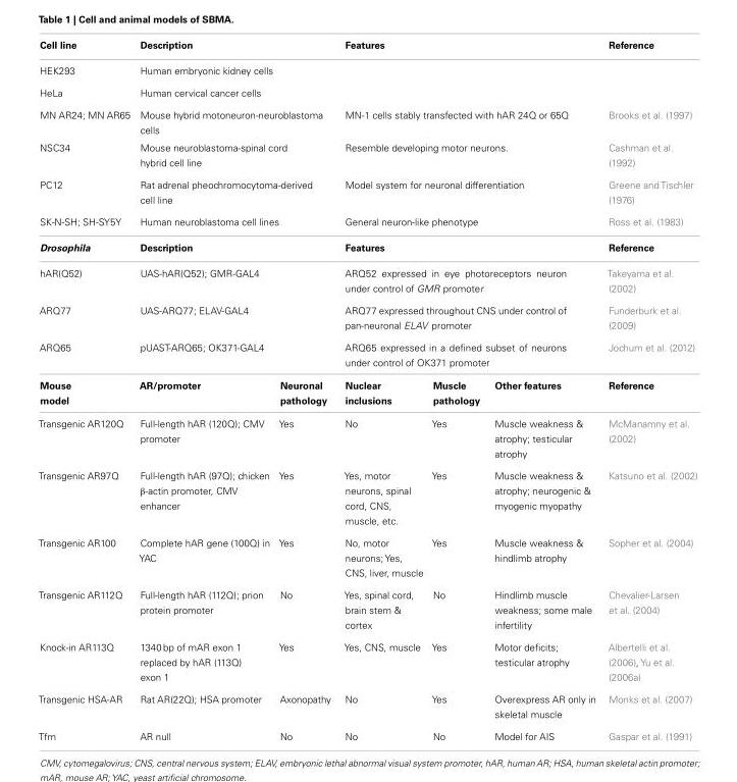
<table><thead><tr><td>Cell line</td><td colspan="2">Description</td><td colspan="3">Features</td><td>Reference</td></tr></thead><tbody><tr><td>HEK293</td><td colspan="2">Human embryonic kidney cells</td><td colspan="3"></td><td></td></tr><tr><td>HeLa</td><td colspan="2">Human cervical cancer cells</td><td colspan="3"></td><td></td></tr><tr><td>MN AR24; MN AR65</td><td colspan="2">Mouse hybrid motoneuron-neuroblastoma cells</td><td colspan="3">MN-1 cells stably transfected with hAR 24Q or 65Q</td><td>Brooks et al. (1997)</td></tr><tr><td>NSC34</td><td colspan="2">Mouse neuroblastoma-spinal cord hybrid cell line</td><td colspan="3">Resemble developing motor neurons.</td><td>Cashman et al. (1992)</td></tr><tr><td>PC12</td><td colspan="2">Rat adrenal pheochromocytoma-derived cell line</td><td colspan="3">Model system for neuronal differentiation</td><td>Greene and Tischler (1976)</td></tr><tr><td>SK-N-SH; SH-SY5Y</td><td colspan="2">Human neuroblastoma cell lines</td><td colspan="3">General neuron-like phenotype</td><td>Ross et al. (1983)</td></tr><tr><td>Drosophila</td><td colspan="2">Description</td><td colspan="3">Features</td><td>Reference</td></tr><tr><td>hAR(Q52)</td><td colspan="2">UAS-hAR(Q52); GMR-GAL4</td><td colspan="3">ARQ52 expressed in eye photoreceptors neuron under control of GMR promoter</td><td>Takeyama et al. (2002)</td></tr><tr><td>ARQ77</td><td colspan="2">UAS-ARQ77; ELAV-GAL4</td><td colspan="3">ARQ77 expressed throughout CNS under control of pan-neuronal ELAV promoter</td><td>Funderburk et al. (2009)</td></tr><tr><td>ARQ65</td><td colspan="2">pUAST-ARQ65; OK371-GAL4</td><td colspan="3">ARQ65 expressed in a defined subset of neurons under control of OK371 promoter</td><td>Jochum et al. (2012)</td></tr><tr><td>Mouse model</td><td>AR/promoter</td><td>Neuronal pathology</td><td>Nuclear inclusions</td><td>Muscle pathology</td><td>Other features</td><td>Reference</td></tr><tr><td>Transgenic AR120Q</td><td>Full-length hAR (120Q); CMV promoter</td><td>Yes</td><td>No</td><td>Yes</td><td>Muscle weakness &amp; atrophy; testicular atrophy</td><td>McManamny et al. (2002)</td></tr><tr><td>Transgenic AR97Q</td><td>Full-length hAR (97Q); chicken β-actin promoter, CMV enhancer</td><td>Yes</td><td>Yes, motor neurons, spinal cord, CNS, muscle, etc.</td><td>Yes</td><td>Muscle weakness &amp; atrophy; neurogenic &amp; myogenic myopathy</td><td>Katsuno et al. (2002)</td></tr><tr><td>Transgenic AR100</td><td>Complete hAR gene (100Q) in YAC</td><td>Yes</td><td>No, motor neurons; Yes, CNS, liver, muscle</td><td>Yes</td><td>Muscle weakness &amp; hindlimb atrophy</td><td>Sopher et al. (2004)</td></tr><tr><td>Transgenic AR112Q</td><td>Full-length hAR (112Q); prion protein promoter</td><td>No</td><td>Yes, spinal cord, brain stem &amp; cortex</td><td>No</td><td>Hindlimb muscle weakness; some male infertility</td><td>Chevalier-Larsen et al. (2004)</td></tr><tr><td>Knock-in AR113Q</td><td>1340 bp of mAR exon 1 replaced by hAR (113Q) exon 1</td><td>Yes</td><td>Yes, CNS, muscle</td><td>Yes</td><td>Motor deficits; testicular atrophy</td><td>Albertelli et al. (2006), Yu et al. (2006a)</td></tr><tr><td>Transgenic HSA-AR</td><td>Rat AR(22Q); HSA promoter</td><td>Axonopathy</td><td>No</td><td>Yes</td><td>Overexpress AR only in skeletal muscle</td><td>Monks et al. (2007)</td></tr><tr><td>Tfm</td><td>AR null</td><td>No</td><td>No</td><td>No</td><td>Model for AIS</td><td>Gaspar et al. (1991)</td></tr></tbody></table>